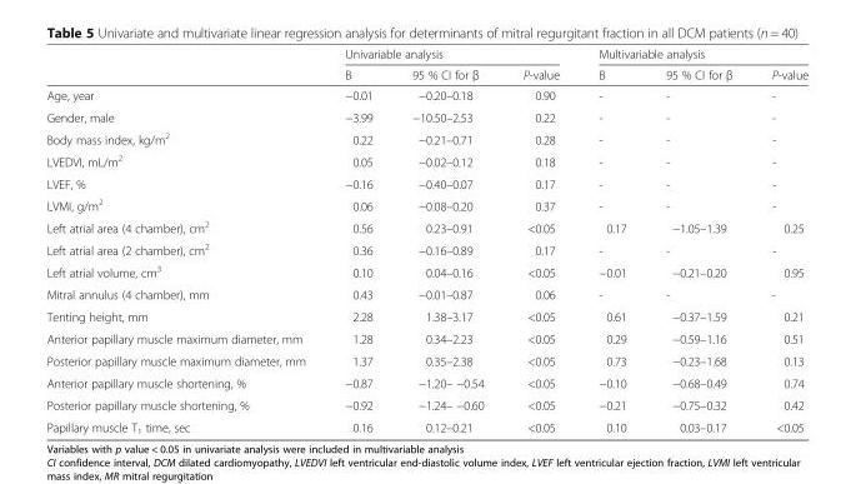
<table><thead><tr><td rowspan="2"></td><td colspan="3">Univariable analysis</td><td colspan="3">Multivariable analysis</td></tr><tr><td>B</td><td>95 % CI for β</td><td>P-value</td><td>B</td><td>95 % CI for β</td><td>P-value</td></tr></thead><tbody><tr><td>Age, year</td><td>−0.01</td><td>−0.20–0.18</td><td>0.90</td><td>-</td><td>-</td><td>-</td></tr><tr><td>Gender, male</td><td>−3.99</td><td>−10.50–2.53</td><td>0.22</td><td>-</td><td>-</td><td>-</td></tr><tr><td>Body mass index, kg/m<sup>2</sup></td><td>0.22</td><td>−0.21–0.71</td><td>0.28</td><td>-</td><td>-</td><td>-</td></tr><tr><td>LVEDVI, mL/m<sup>2</sup></td><td>0.05</td><td>−0.02–0.12</td><td>0.18</td><td>-</td><td>-</td><td>-</td></tr><tr><td>LVEF, %</td><td>−0.16</td><td>−0.40–0.07</td><td>0.17</td><td>-</td><td>-</td><td>-</td></tr><tr><td>LVMI, g/m<sup>2</sup></td><td>0.06</td><td>−0.08–0.20</td><td>0.37</td><td>-</td><td>-</td><td>-</td></tr><tr><td>Left atrial area (4 chamber), cm<sup>2</sup></td><td>0.56</td><td>0.23–0.91</td><td>&lt;0.05</td><td>0.17</td><td>−1.05–1.39</td><td>0.25</td></tr><tr><td>Left atrial area (2 chamber), cm<sup>2</sup></td><td>0.36</td><td>−0.16–0.89</td><td>0.17</td><td>-</td><td>-</td><td>-</td></tr><tr><td>Left atrial volume, cm<sup>3</sup></td><td>0.10</td><td>0.04–0.16</td><td>&lt;0.05</td><td>−0.01</td><td>−0.21–0.20</td><td>0.95</td></tr><tr><td>Mitral annulus (4 chamber), mm</td><td>0.43</td><td>−0.01–0.87</td><td>0.06</td><td>-</td><td>-</td><td>-</td></tr><tr><td>Tenting height, mm</td><td>2.28</td><td>1.38–3.17</td><td>&lt;0.05</td><td>0.61</td><td>−0.37–1.59</td><td>0.21</td></tr><tr><td>Anterior papillary muscle maximum diameter, mm</td><td>1.28</td><td>0.34–2.23</td><td>&lt;0.05</td><td>0.29</td><td>−0.59–1.16</td><td>0.51</td></tr><tr><td>Posterior papillary muscle maximum diameter, mm</td><td>1.37</td><td>0.35–2.38</td><td>&lt;0.05</td><td>0.73</td><td>−0.23–1.68</td><td>0.13</td></tr><tr><td>Anterior papillary muscle shortening, %</td><td>−0.87</td><td>−1.20– −0.54</td><td>&lt;0.05</td><td>−0.10</td><td>−0.68–0.49</td><td>0.74</td></tr><tr><td>Posterior papillary muscle shortening, %</td><td>−0.92</td><td>−1.24– −0.60</td><td>&lt;0.05</td><td>−0.21</td><td>−0.75–0.32</td><td>0.42</td></tr><tr><td>Papillary muscle T<sub>1</sub> time, sec</td><td>0.16</td><td>0.12–0.21</td><td>&lt;0.05</td><td>0.10</td><td>0.03–0.17</td><td>&lt;0.05</td></tr></tbody></table>